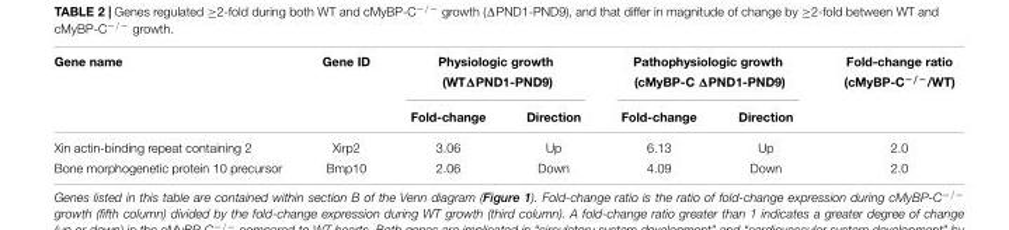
<table><thead><tr><td rowspan="2">Gene name</td><td rowspan="2">Gene ID</td><td colspan="2">Physiologic growth (WTΔPND1-PND9)</td><td colspan="2">Pathophysiologic growth (cMyBP-C ΔPND1-PND9)</td><td rowspan="2">Fold-change ratio (cMyBP-C<sup>−/−</sup>/WT)</td></tr><tr><td>Fold-change</td><td>Direction</td><td>Fold-change</td><td>Direction</td></tr></thead><tbody><tr><td>Xin actin-binding repeat containing 2</td><td>Xirp2</td><td>3.06</td><td>Up</td><td>6.13</td><td>Up</td><td>2.0</td></tr><tr><td>Bone morphogenetic protein 10 precursor</td><td>Bmp10</td><td>2.06</td><td>Down</td><td>4.09</td><td>Down</td><td>2.0</td></tr></tbody></table>